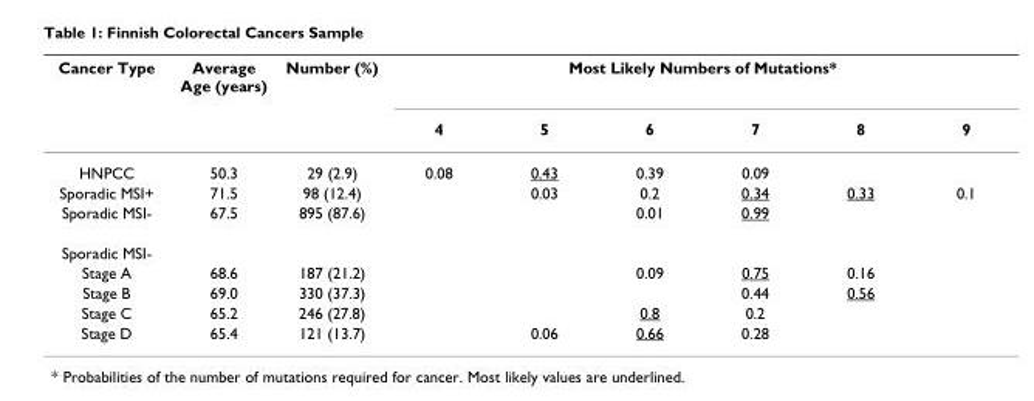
<table><thead><tr><td rowspan="2">Cancer Type</td><td rowspan="2">Average Age (years)</td><td rowspan="2">Number (%)</td><td colspan="6">Most Likely Numbers of Mutations*</td></tr><tr><td>4</td><td>5</td><td>6</td><td>7</td><td>8</td><td>9</td></tr></thead><tbody><tr><td>HNPCC</td><td>50.3</td><td>29 (2.9)</td><td>0.08</td><td>0.43</td><td>0.39</td><td>0.09</td><td></td><td></td></tr><tr><td>Sporadic MSI+</td><td>71.5</td><td>98 (12.4)</td><td></td><td>0.03</td><td>0.2</td><td>0.34</td><td>0.33</td><td>0.1</td></tr><tr><td>Sporadic MSI-</td><td>67.5</td><td>895 (87.6)</td><td></td><td></td><td>0.01</td><td>0.99</td><td></td><td></td></tr><tr><td colspan="9">Sporadic MSI-</td></tr><tr><td>Stage A</td><td>68.6</td><td>187 (21.2)</td><td></td><td></td><td>0.09</td><td>0.75</td><td>0.16</td><td></td></tr><tr><td>Stage B</td><td>69.0</td><td>330 (37.3)</td><td></td><td></td><td></td><td>0.44</td><td>0.56</td><td></td></tr><tr><td>Stage C</td><td>65.2</td><td>246 (27.8)</td><td></td><td></td><td>0.8</td><td>0.2</td><td></td><td></td></tr><tr><td>Stage D</td><td>65.4</td><td>121 (13.7)</td><td></td><td>0.06</td><td>0.66</td><td>0.28</td><td></td><td></td></tr></tbody></table>